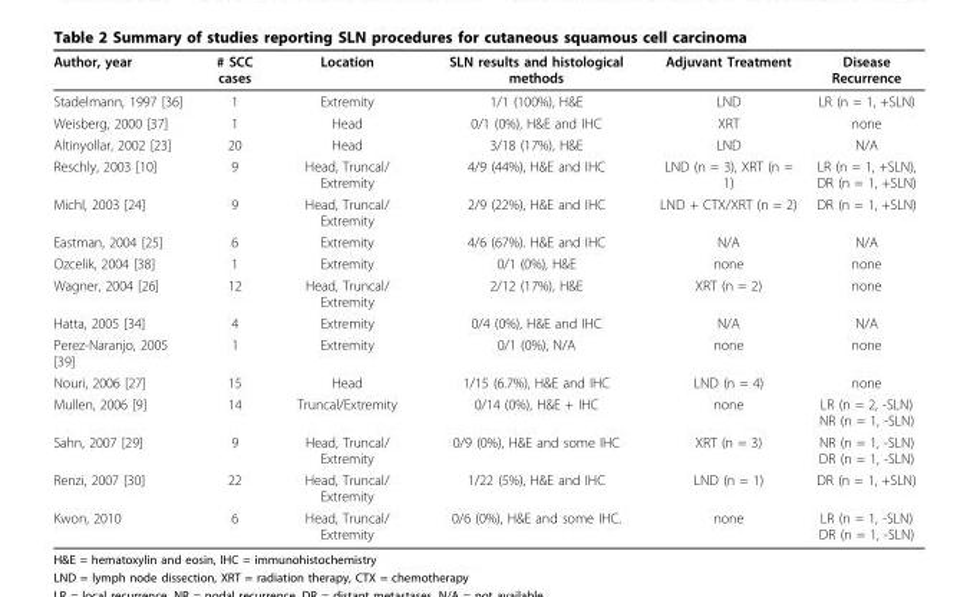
<table><thead><tr><td>Author, year</td><td># SCC cases</td><td>Location</td><td>SLN results and histological methods</td><td>Adjuvant Treatment</td><td>Disease Recurrence</td></tr></thead><tbody><tr><td>Stadelmann, 1997 [36]</td><td>1</td><td>Extremity</td><td>1/1 (100%), H&amp;E</td><td>LND</td><td>LR (n = 1, +SLN)</td></tr><tr><td>Weisberg, 2000 [37]</td><td>1</td><td>Head</td><td>0/1 (0%), H&amp;E and IHC</td><td>XRT</td><td>none</td></tr><tr><td>Altinyollar, 2002 [23]</td><td>20</td><td>Head</td><td>3/18 (17%), H&amp;E</td><td>LND</td><td>N/A</td></tr><tr><td>Reschly, 2003 [10]</td><td>9</td><td>Head, Truncal/ Extremity</td><td>4/9 (44%), H&amp;E and IHC</td><td>LND (n = 3), XRT (n = 1)</td><td>LR (n = 1, +SLN), DR (n = 1, +SLN)</td></tr><tr><td>Michl, 2003 [24]</td><td>9</td><td>Head, Truncal/ Extremity</td><td>2/9 (22%), H&amp;E and IHC</td><td>LND + CTX/XRT (n = 2)</td><td>DR (n = 1, +SLN)</td></tr><tr><td>Eastman, 2004 [25]</td><td>6</td><td>Extremity</td><td>4/6 (67%). H&amp;E and IHC</td><td>N/A</td><td>N/A</td></tr><tr><td>Ozcelik, 2004 [38]</td><td>1</td><td>Extremity</td><td>0/1 (0%), H&amp;E</td><td>none</td><td>none</td></tr><tr><td>Wagner, 2004 [26]</td><td>12</td><td>Head, Truncal/ Extremity</td><td>2/12 (17%), H&amp;E</td><td>XRT (n = 2)</td><td>none</td></tr><tr><td>Hatta, 2005 [34]</td><td>4</td><td>Extremity</td><td>0/4 (0%), H&amp;E and IHC</td><td>N/A</td><td>N/A</td></tr><tr><td>Perez-Naranjo, 2005 [39]</td><td>1</td><td>Extremity</td><td>0/1 (0%), N/A</td><td>none</td><td>none</td></tr><tr><td>Nouri, 2006 [27]</td><td>15</td><td>Head</td><td>1/15 (6.7%), H&amp;E and IHC</td><td>LND (n = 4)</td><td>none</td></tr><tr><td>Mullen, 2006 [9]</td><td>14</td><td>Truncal/Extremity</td><td>0/14 (0%), H&amp;E + IHC</td><td>none</td><td>LR (n = 2, -SLN) NR (n = 1, -SLN)</td></tr><tr><td>Sahn, 2007 [29]</td><td>9</td><td>Head, Truncal/ Extremity</td><td>0/9 (0%), H&amp;E and some IHC</td><td>XRT (n = 3)</td><td>NR (n = 1, -SLN) DR (n = 1, -SLN)</td></tr><tr><td>Renzi, 2007 [30]</td><td>22</td><td>Head, Truncal/ Extremity</td><td>1/22 (5%), H&amp;E and IHC</td><td>LND (n = 1)</td><td>DR (n = 1, +SLN)</td></tr><tr><td>Kwon, 2010</td><td>6</td><td>Head, Truncal/ Extremity</td><td>0/6 (0%), H&amp;E and some IHC.</td><td>none</td><td>LR (n = 1, -SLN) DR (n = 1, -SLN)</td></tr></tbody></table>